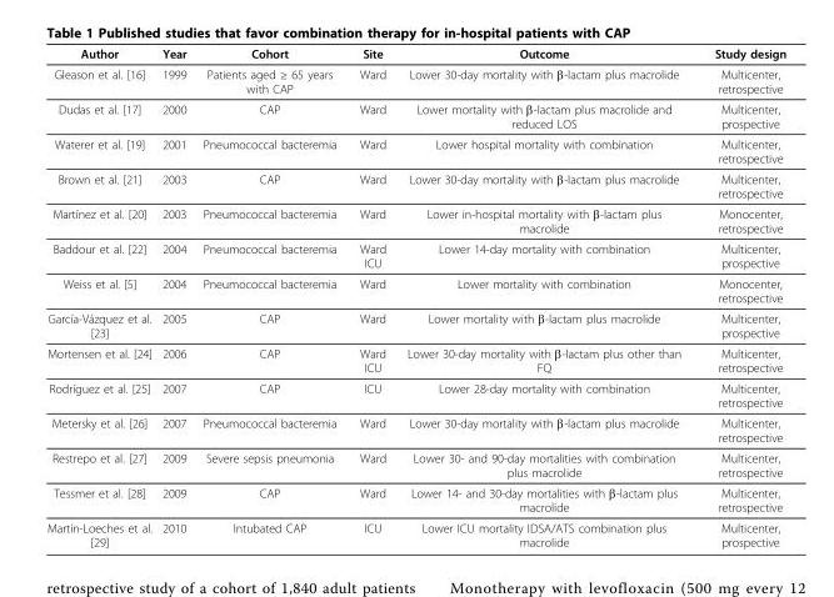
<table><thead><tr><td>Author</td><td>Year</td><td>Cohort</td><td>Site</td><td>Outcome</td><td>Study design</td></tr></thead><tbody><tr><td>Gleason et al. [16]</td><td>1999</td><td>Patients aged ≥ 65 years with CAP</td><td>Ward</td><td>Lower 30-day mortality with β-lactam plus macrolide</td><td>Multicenter, retrospective</td></tr><tr><td>Dudas et al. [17]</td><td>2000</td><td>CAP</td><td>Ward</td><td>Lower mortality with β-lactam plus macrolide and reduced LOS</td><td>Multicenter, prospective</td></tr><tr><td>Waterer et al. [19]</td><td>2001</td><td>Pneumococcal bacteremia</td><td>Ward</td><td>Lower hospital mortality with combination</td><td>Multicenter, retrospective</td></tr><tr><td>Brown et al. [21]</td><td>2003</td><td>CAP</td><td>Ward</td><td>Lower 30-day mortality with β-lactam plus macrolide</td><td>Multicenter, retrospective</td></tr><tr><td>Martínez et al. [20]</td><td>2003</td><td>Pneumococcal bacteremia</td><td>Ward</td><td>Lower in-hospital mortality with β-lactam plus macrolide</td><td>Monocenter, retrospective</td></tr><tr><td>Baddour et al. [22]</td><td>2004</td><td>Pneumococcal bacteremia</td><td>Ward ICU</td><td>Lower 14-day mortality with combination</td><td>Multicenter, prospective</td></tr><tr><td>Weiss et al. [5]</td><td>2004</td><td>Pneumococcal bacteremia</td><td>Ward</td><td>Lower mortality with combination</td><td>Monocenter, retrospective</td></tr><tr><td>García-Vázquez et al. [23]</td><td>2005</td><td>CAP</td><td>Ward</td><td>Lower mortality with β-lactam plus macrolide</td><td>Multicenter, prospective</td></tr><tr><td>Mortensen et al. [24]</td><td>2006</td><td>CAP</td><td>Ward ICU</td><td>Lower 30-day mortality with β-lactam plus other than FQ</td><td>Multicenter, retrospective</td></tr><tr><td>Rodríguez et al. [25]</td><td>2007</td><td>CAP</td><td>ICU</td><td>Lower 28-day mortality with combination</td><td>Multicenter, retrospective</td></tr><tr><td>Metersky et al. [26]</td><td>2007</td><td>Pneumococcal bacteremia</td><td>Ward</td><td>Lower 30-day mortality with β-lactam plus macrolide</td><td>Multicenter, retrospective</td></tr><tr><td>Restrepo et al. [27]</td><td>2009</td><td>Severe sepsis pneumonia</td><td>Ward</td><td>Lower 30- and 90-day mortalities with combination plus macrolide</td><td>Multicenter, retrospective</td></tr><tr><td>Tessmer et al. [28]</td><td>2009</td><td>CAP</td><td>Ward</td><td>Lower 14- and 30-day mortalities with β-lactam plus macrolide</td><td>Multicenter, retrospective</td></tr><tr><td>Martín-Loeches et al. [29]</td><td>2010</td><td>Intubated CAP</td><td>ICU</td><td>Lower ICU mortality IDSA/ATS combination plus macrolide</td><td>Multicenter, prospective</td></tr></tbody></table>